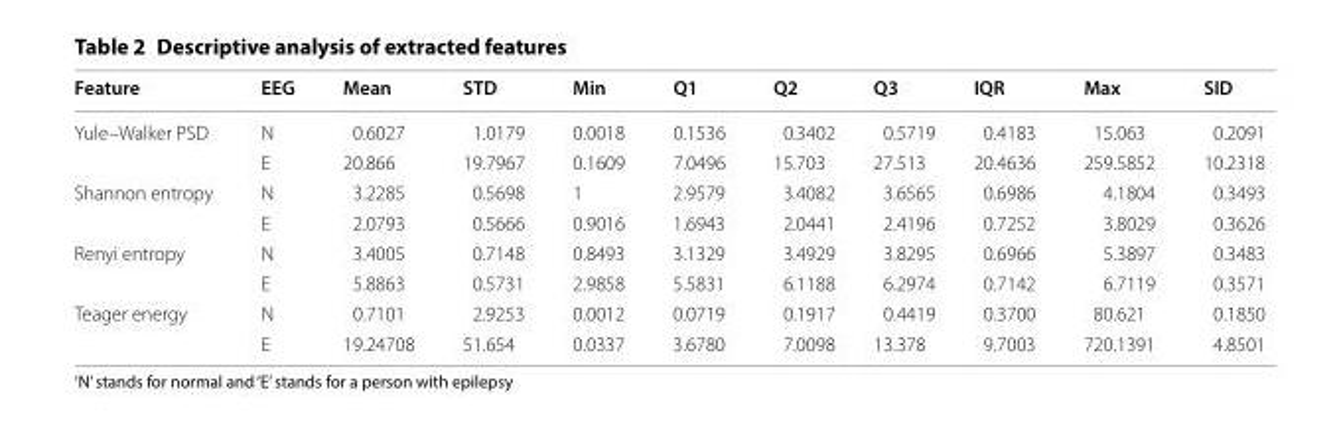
<table><thead><tr><td>Feature</td><td>EEG</td><td>Mean</td><td>STD</td><td>Min</td><td>Q1</td><td>Q2</td><td>Q3</td><td>IQR</td><td>Max</td><td>SID</td></tr></thead><tbody><tr><td rowspan="2">Yule–Walker PSD</td><td>N</td><td>0.6027</td><td>1.0179</td><td>0.0018</td><td>0.1536</td><td>0.3402</td><td>0.5719</td><td>0.4183</td><td>15.063</td><td>0.2091</td></tr><tr><td>E</td><td>20.866</td><td>19.7967</td><td>0.1609</td><td>7.0496</td><td>15.703</td><td>27.513</td><td>20.4636</td><td>259.5852</td><td>10.2318</td></tr><tr><td rowspan="2">Shannon entropy</td><td>N</td><td>3.2285</td><td>0.5698</td><td>1</td><td>2.9579</td><td>3.4082</td><td>3.6565</td><td>0.6986</td><td>4.1804</td><td>0.3493</td></tr><tr><td>E</td><td>2.0793</td><td>0.5666</td><td>0.9016</td><td>1.6943</td><td>2.0441</td><td>2.4196</td><td>0.7252</td><td>3.8029</td><td>0.3626</td></tr><tr><td rowspan="2">Renyi entropy</td><td>N</td><td>3.4005</td><td>0.7148</td><td>0.8493</td><td>3.1329</td><td>3.4929</td><td>3.8295</td><td>0.6966</td><td>5.3897</td><td>0.3483</td></tr><tr><td>E</td><td>5.8863</td><td>0.5731</td><td>2.9858</td><td>5.5831</td><td>6.1188</td><td>6.2974</td><td>0.7142</td><td>6.7119</td><td>0.3571</td></tr><tr><td rowspan="2">Teager energy</td><td>N</td><td>0.7101</td><td>2.9253</td><td>0.0012</td><td>0.0719</td><td>0.1917</td><td>0.4419</td><td>0.3700</td><td>80.621</td><td>0.1850</td></tr><tr><td>E</td><td>19.24708</td><td>51.654</td><td>0.0337</td><td>3.6780</td><td>7.0098</td><td>13.378</td><td>9.7003</td><td>720.1391</td><td>4.8501</td></tr></tbody></table>